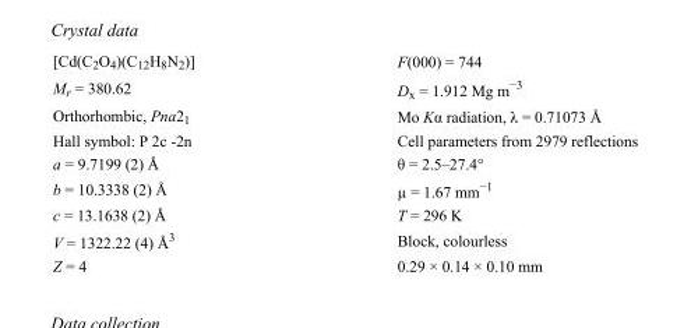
<table><tbody><tr><td>[Cd(C<sub>2</sub>O<sub>4</sub>)(C<sub>12</sub>H<sub>8</sub>N<sub>2</sub>)]</td><td>F(000) = 744</td></tr><tr><td>M<sub>r</sub> = 380.62</td><td>D<sub>x</sub> = 1.912 Mg m<sup>−3</sup></td></tr><tr><td>Orthorhombic, Pna2<sub>1</sub></td><td>Mo Kα radiation, λ = 0.71073 Å</td></tr><tr><td>Hall symbol: P 2c -2n</td><td>Cell parameters from 2979 reflections</td></tr><tr><td>a = 9.7199 (2) Å</td><td>θ = 2.5–27.4°</td></tr><tr><td>b = 10.3338 (2) Å</td><td>µ = 1.67 mm<sup>−1</sup></td></tr><tr><td>c = 13.1638 (2) Å</td><td>T = 296 K</td></tr><tr><td>V = 1322.22 (4) Å<sup>3</sup></td><td>Block, colourless</td></tr><tr><td>Z = 4</td><td>0.29 × 0.14 × 0.10 mm</td></tr></tbody></table>